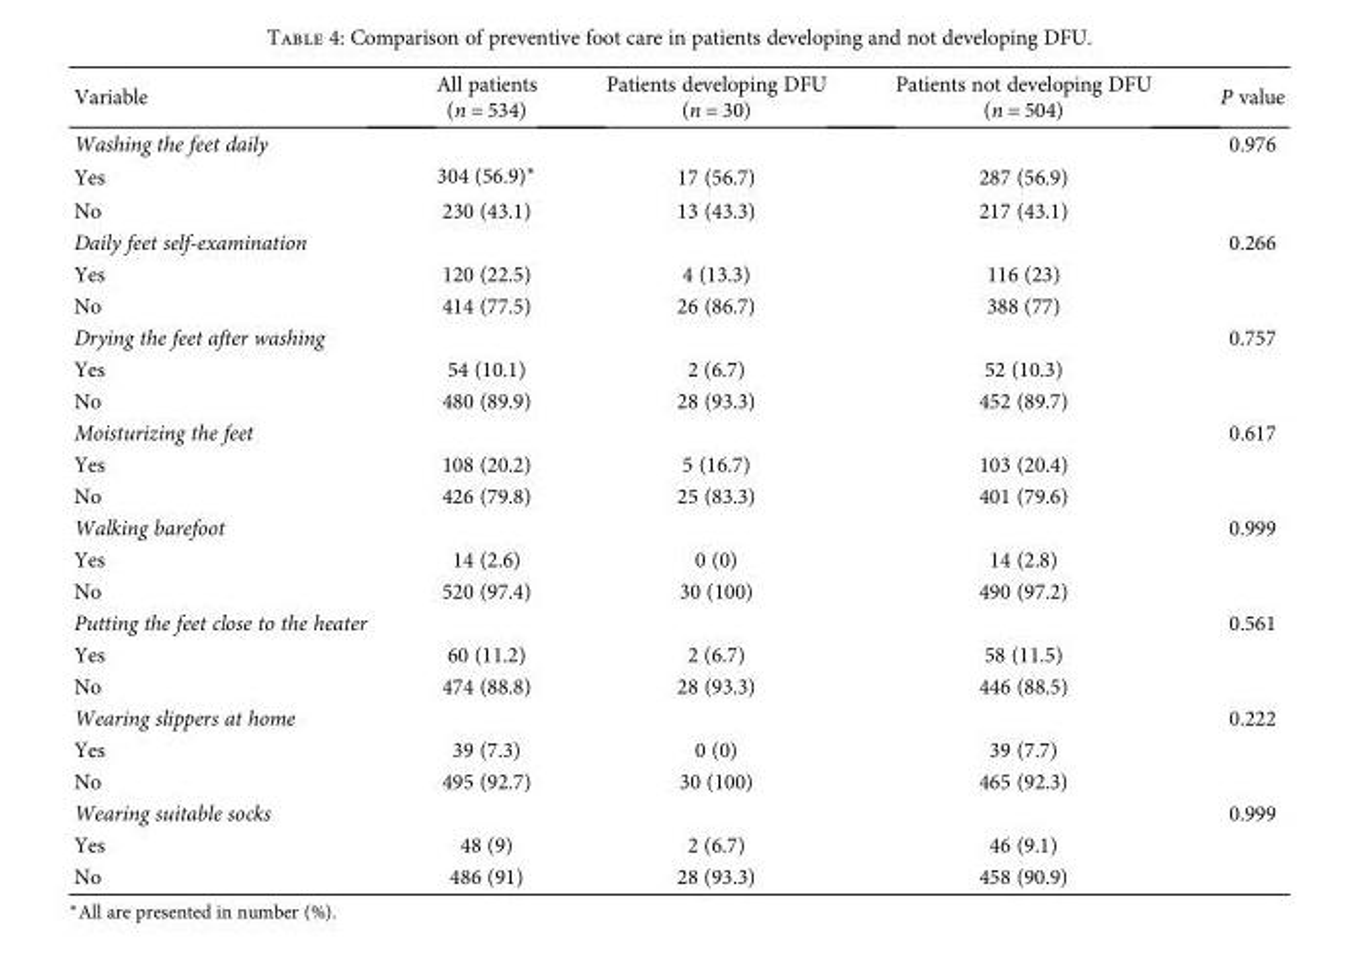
<table><thead><tr><td>Variable</td><td>All patients (n = 534)</td><td>Patients developing DFU (n = 30)</td><td>Patients not developing DFU (n = 504)</td><td>P value</td></tr></thead><tbody><tr><td>Washing the feet daily</td><td></td><td></td><td></td><td>0.976</td></tr><tr><td>Yes</td><td>304 (56.9)∗</td><td>17 (56.7)</td><td>287 (56.9)</td><td></td></tr><tr><td>No</td><td>230 (43.1)</td><td>13 (43.3)</td><td>217 (43.1)</td><td></td></tr><tr><td>Daily feet self-examination</td><td></td><td></td><td></td><td>0.266</td></tr><tr><td>Yes</td><td>120 (22.5)</td><td>4 (13.3)</td><td>116 (23)</td><td></td></tr><tr><td>No</td><td>414 (77.5)</td><td>26 (86.7)</td><td>388 (77)</td><td></td></tr><tr><td>Drying the feet after washing</td><td></td><td></td><td></td><td>0.757</td></tr><tr><td>Yes</td><td>54 (10.1)</td><td>2 (6.7)</td><td>52 (10.3)</td><td></td></tr><tr><td>No</td><td>480 (89.9)</td><td>28 (93.3)</td><td>452 (89.7)</td><td></td></tr><tr><td>Moisturizing the feet</td><td></td><td></td><td></td><td>0.617</td></tr><tr><td>Yes</td><td>108 (20.2)</td><td>5 (16.7)</td><td>103 (20.4)</td><td></td></tr><tr><td>No</td><td>426 (79.8)</td><td>25 (83.3)</td><td>401 (79.6)</td><td></td></tr><tr><td>Walking barefoot</td><td></td><td></td><td></td><td>0.999</td></tr><tr><td>Yes</td><td>14 (2.6)</td><td>0 (0)</td><td>14 (2.8)</td><td></td></tr><tr><td>No</td><td>520 (97.4)</td><td>30 (100)</td><td>490 (97.2)</td><td></td></tr><tr><td>Putting the feet close to the heater</td><td></td><td></td><td></td><td>0.561</td></tr><tr><td>Yes</td><td>60 (11.2)</td><td>2 (6.7)</td><td>58 (11.5)</td><td></td></tr><tr><td>No</td><td>474 (88.8)</td><td>28 (93.3)</td><td>446 (88.5)</td><td></td></tr><tr><td>Wearing slippers at home</td><td></td><td></td><td></td><td>0.222</td></tr><tr><td>Yes</td><td>39 (7.3)</td><td>0 (0)</td><td>39 (7.7)</td><td></td></tr><tr><td>No</td><td>495 (92.7)</td><td>30 (100)</td><td>465 (92.3)</td><td></td></tr><tr><td>Wearing suitable socks</td><td></td><td></td><td></td><td>0.999</td></tr><tr><td>Yes</td><td>48 (9)</td><td>2 (6.7)</td><td>46 (9.1)</td><td></td></tr><tr><td>No</td><td>486 (91)</td><td>28 (93.3)</td><td>458 (90.9)</td><td></td></tr></tbody></table>